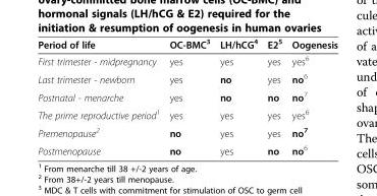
<table><thead><tr><td>Period of life</td><td>OC-BMC<sup>3</sup></td><td>LH/hCG<sup>4</sup></td><td>E2<sup>5</sup></td><td>Oogenesis</td></tr></thead><tbody><tr><td>First trimester - midpregnancy</td><td>yes</td><td>yes</td><td>yes</td><td>yes<sup>6</sup></td></tr><tr><td>Last trimester - newborn</td><td>yes</td><td>no</td><td>yes</td><td>no<sup>6</sup></td></tr><tr><td>Postnatal - menarche</td><td>yes</td><td>no</td><td>no</td><td>no<sup>7</sup></td></tr><tr><td>The prime reproductive period<sup>1</sup></td><td>yes</td><td>yes</td><td>yes</td><td>yes<sup>6</sup></td></tr><tr><td>Premenopause<sup>2</sup></td><td>no</td><td>yes</td><td>yes</td><td>no<sup>7</sup></td></tr><tr><td>Postmenopause</td><td>no</td><td>yes</td><td>no</td><td>no<sup>6</sup></td></tr></tbody></table>